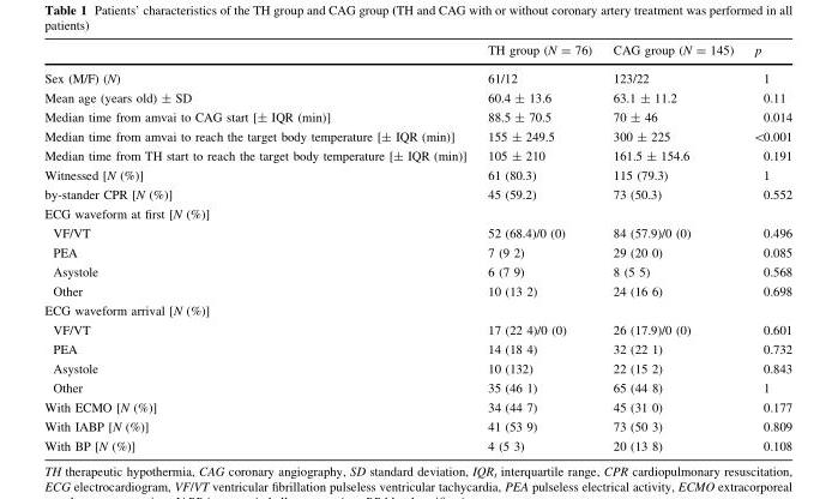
<table><thead><tr><td></td><td>TH group (N = 76)</td><td>CAG group (N = 145)</td><td>p</td></tr></thead><tbody><tr><td>Sex (M/F) (N)</td><td>61/12</td><td>123/22</td><td>1</td></tr><tr><td>Mean age (years old) ± SD</td><td>60.4 ± 13.6</td><td>63.1 ± 11.2</td><td>0.11</td></tr><tr><td>Median time from amvai to CAG start [± IQR (min)]</td><td>88.5 ± 70.5</td><td>70 ± 46</td><td>0.014</td></tr><tr><td>Median time from amvai to reach the target body temperature [± IQR (min)]</td><td>155 ± 249.5</td><td>300 ± 225</td><td>&lt;0.001</td></tr><tr><td>Median time from TH start to reach the target body temperature [± IQR (min)]</td><td>105 ± 210</td><td>161.5 ± 154.6</td><td>0.191</td></tr><tr><td>Witnessed [N (%)]</td><td>61 (80.3)</td><td>115 (79.3)</td><td>1</td></tr><tr><td>by-stander CPR [N (%)]</td><td>45 (59.2)</td><td>73 (50.3)</td><td>0.552</td></tr><tr><td colspan="4">ECG waveform at first [N (%)]</td></tr><tr><td>VF/VT</td><td>52 (68.4)/0 (0)</td><td>84 (57.9)/0 (0)</td><td>0.496</td></tr><tr><td>PEA</td><td>7 (9 2)</td><td>29 (20 0)</td><td>0.085</td></tr><tr><td>Asystole</td><td>6 (7 9)</td><td>8 (5 5)</td><td>0.568</td></tr><tr><td>Other</td><td>10 (13 2)</td><td>24 (16 6)</td><td>0.698</td></tr><tr><td colspan="4">ECG waveform arrival [N (%)]</td></tr><tr><td>VF/VT</td><td>17 (22 4)/0 (0)</td><td>26 (17.9)/0 (0)</td><td>0.601</td></tr><tr><td>PEA</td><td>14 (18 4)</td><td>32 (22 1)</td><td>0.732</td></tr><tr><td>Asystole</td><td>10 (132)</td><td>22 (15 2)</td><td>0.843</td></tr><tr><td>Other</td><td>35 (46 1)</td><td>65 (44 8)</td><td>1</td></tr><tr><td>With ECMO [N (%)]</td><td>34 (44 7)</td><td>45 (31 0)</td><td>0.177</td></tr><tr><td>With IABP [N (%)]</td><td>41 (53 9)</td><td>73 (50 3)</td><td>0.809</td></tr><tr><td>With BP [N (%)]</td><td>4 (5 3)</td><td>20 (13 8)</td><td>0.108</td></tr></tbody></table>